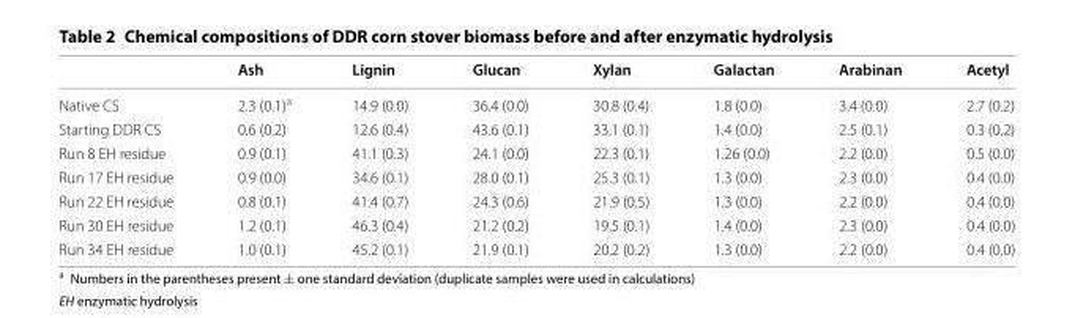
<table><thead><tr><td></td><td>Ash</td><td>Lignin</td><td>Glucan</td><td>Xylan</td><td>Galactan</td><td>Arabinan</td><td>Acetyl</td></tr></thead><tbody><tr><td>Native CS</td><td>2.3 (0.1)<sup>a</sup></td><td>14.9 (0.0)</td><td>36.4 (0.0)</td><td>30.8 (0.4)</td><td>1.8 (0.0)</td><td>3.4 (0.0)</td><td>2.7 (0.2)</td></tr><tr><td>Starting DDR CS</td><td>0.6 (0.2)</td><td>12.6 (0.4)</td><td>43.6 (0.1)</td><td>33.1 (0.1)</td><td>1.4 (0.0)</td><td>2.5 (0.1)</td><td>0.3 (0.2)</td></tr><tr><td>Run 8 EH residue</td><td>0.9 (0.1)</td><td>41.1 (0.3)</td><td>24.1 (0.0)</td><td>22.3 (0.1)</td><td>1.26 (0.0)</td><td>2.2 (0.0)</td><td>0.5 (0.0)</td></tr><tr><td>Run 17 EH residue</td><td>0.9 (0.0)</td><td>34.6 (0.1)</td><td>28.0 (0.1)</td><td>25.3 (0.1)</td><td>1.3 (0.0)</td><td>2.3 (0.0)</td><td>0.4 (0.0)</td></tr><tr><td>Run 22 EH residue</td><td>0.8 (0.1)</td><td>41.4 (0.7)</td><td>24.3 (0.6)</td><td>21.9 (0.5)</td><td>1.3 (0.0)</td><td>2.2 (0.0)</td><td>0.4 (0.0)</td></tr><tr><td>Run 30 EH residue</td><td>1.2 (0.1)</td><td>46.3 (0.4)</td><td>21.2 (0.2)</td><td>19.5 (0.1)</td><td>1.4 (0.0)</td><td>2.3 (0.0)</td><td>0.4 (0.0)</td></tr><tr><td>Run 34 EH residue</td><td>1.0 (0.1)</td><td>45.2 (0.1)</td><td>21.9 (0.1)</td><td>20.2 (0.2)</td><td>1.3 (0.0)</td><td>2.2 (0.0)</td><td>0.4 (0.0)</td></tr></tbody></table>